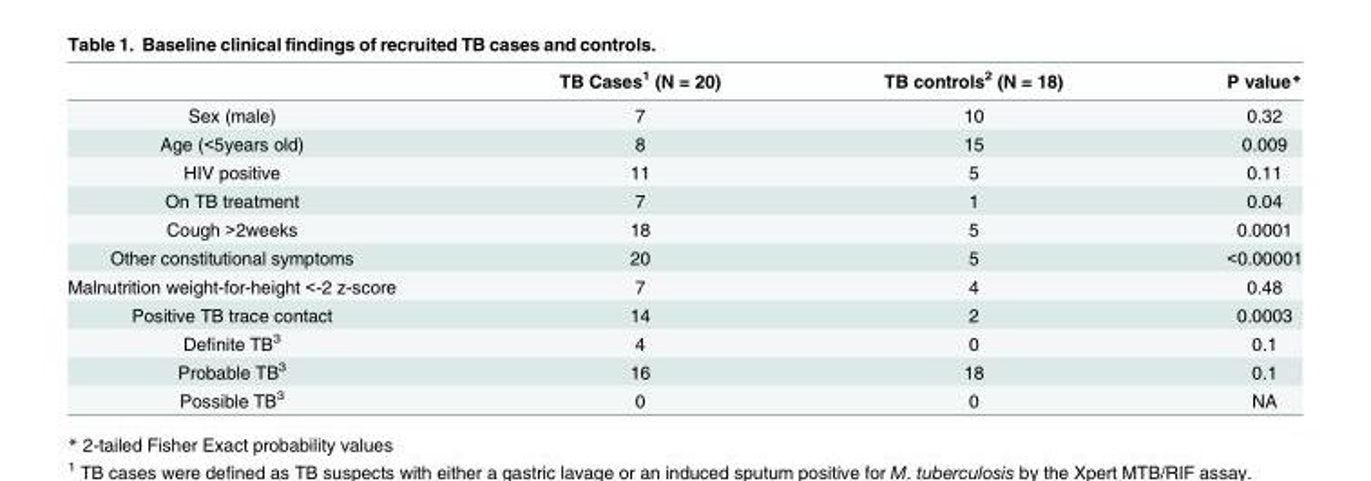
<table><thead><tr><td></td><td>TB Cases<sup>1</sup> (N = 20)</td><td>TB controls<sup>2</sup> (N = 18)</td><td>P value*</td></tr></thead><tbody><tr><td>Sex (male)</td><td>7</td><td>10</td><td>0.32</td></tr><tr><td>Age (&lt;5years old)</td><td>8</td><td>15</td><td>0.009</td></tr><tr><td>HIV positive</td><td>11</td><td>5</td><td>0.11</td></tr><tr><td>On TB treatment</td><td>7</td><td>1</td><td>0.04</td></tr><tr><td>Cough &gt;2weeks</td><td>18</td><td>5</td><td>0.0001</td></tr><tr><td>Other constitutional symptoms</td><td>20</td><td>5</td><td>&lt;0.00001</td></tr><tr><td>Malnutrition weight-for-height &lt;-2 z-score</td><td>7</td><td>4</td><td>0.48</td></tr><tr><td>Positive TB trace contact</td><td>14</td><td>2</td><td>0.0003</td></tr><tr><td>Definite TB<sup>3</sup></td><td>4</td><td>0</td><td>0.1</td></tr><tr><td>Probable TB<sup>3</sup></td><td>16</td><td>18</td><td>0.1</td></tr><tr><td>Possible TB<sup>3</sup></td><td>0</td><td>0</td><td>NA</td></tr></tbody></table>